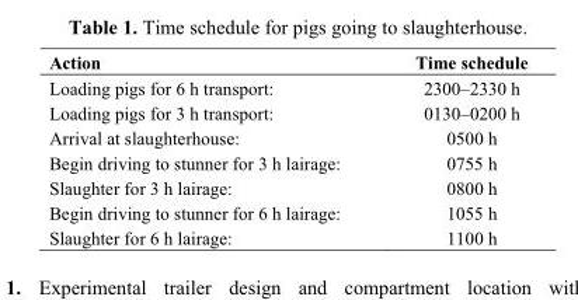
<table><thead><tr><td>Action</td><td>Time schedule</td></tr></thead><tbody><tr><td>Loading pigs for 6 h transport:</td><td>2300–2330 h</td></tr><tr><td>Loading pigs for 3 h transport:</td><td>0130–0200 h</td></tr><tr><td>Arrival at slaughterhouse:</td><td>0500 h</td></tr><tr><td>Begin driving to stunner for 3 h lairage:</td><td>0755 h</td></tr><tr><td>Slaughter for 3 h lairage:</td><td>0800 h</td></tr><tr><td>Begin driving to stunner for 6 h lairage:</td><td>1055 h</td></tr><tr><td>Slaughter for 6 h lairage:</td><td>1100 h</td></tr></tbody></table>